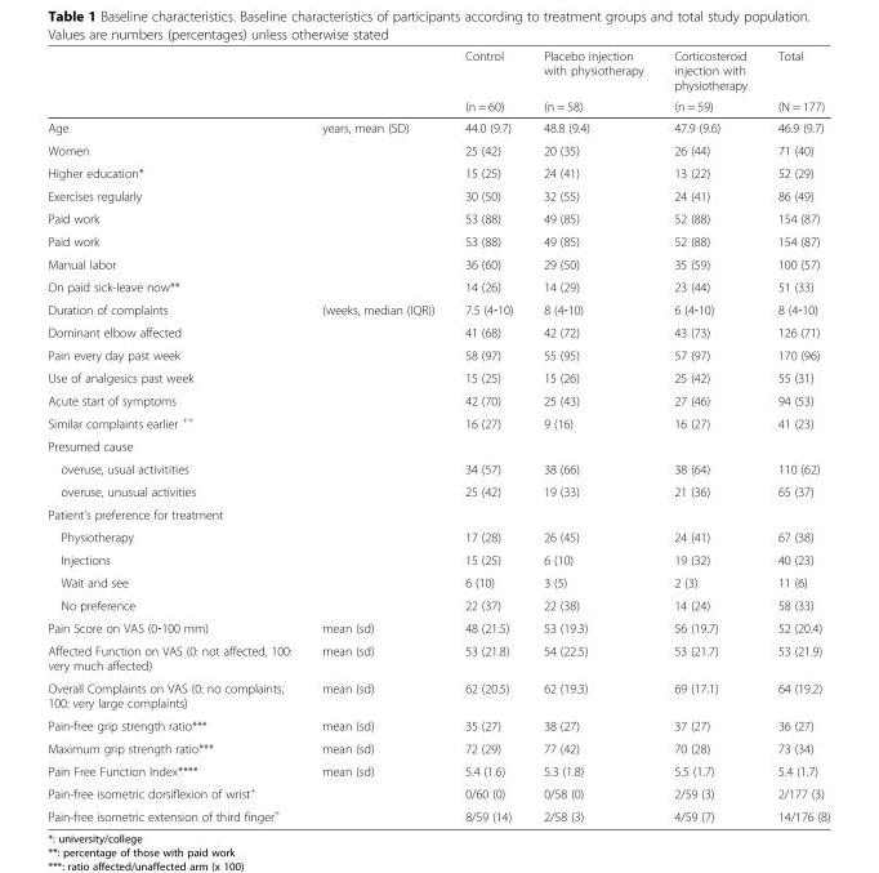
<table><thead><tr><td rowspan="2"></td><td rowspan="2"></td><td rowspan="2">Control (n = 60)</td><td rowspan="2">Placebo injection with physiotherapy (n = 58)</td><td rowspan="2">Corticosteroid injection with physiotherapy (n = 59)</td><td rowspan="2">Total (N = 177)</td></tr><tr></tr></thead><tbody><tr><td>Age</td><td>years, mean (SD)</td><td>44.0 (9.7)</td><td>48.8 (9.4)</td><td>47.9 (9.6)</td><td>46.9 (9.7)</td></tr><tr><td>Women</td><td></td><td>25 (42)</td><td>20 (35)</td><td>26 (44)</td><td>71 (40)</td></tr><tr><td>Higher education*</td><td></td><td>15 (25)</td><td>24 (41)</td><td>13 (22)</td><td>52 (29)</td></tr><tr><td>Exercises regularly</td><td></td><td>30 (50)</td><td>32 (55)</td><td>24 (41)</td><td>86 (49)</td></tr><tr><td>Paid work</td><td></td><td>53 (88)</td><td>49 (85)</td><td>52 (88)</td><td>154 (87)</td></tr><tr><td>Paid work</td><td></td><td>53 (88)</td><td>49 (85)</td><td>52 (88)</td><td>154 (87)</td></tr><tr><td>Manual labor</td><td></td><td>36 (60)</td><td>29 (50)</td><td>35 (59)</td><td>100 (57)</td></tr><tr><td>On paid sick-leave now**</td><td></td><td>14 (26)</td><td>14 (29)</td><td>23 (44)</td><td>51 (33)</td></tr><tr><td>Duration of complaints</td><td>(weeks, median (IQR))</td><td>7.5 (4‐10)</td><td>8 (4‐10)</td><td>6 (4‐10)</td><td>8 (4‐10)</td></tr><tr><td>Dominant elbow affected</td><td></td><td>41 (68)</td><td>42 (72)</td><td>43 (73)</td><td>126 (71)</td></tr><tr><td>Pain every day past week</td><td></td><td>58 (97)</td><td>55 (95)</td><td>57 (97)</td><td>170 (96)</td></tr><tr><td>Use of analgesics past week</td><td></td><td>15 (25)</td><td>15 (26)</td><td>25 (42)</td><td>55 (31)</td></tr><tr><td>Acute start of symptoms</td><td></td><td>42 (70)</td><td>25 (43)</td><td>27 (46)</td><td>94 (53)</td></tr><tr><td>Similar complaints earlier <sup>++</sup></td><td></td><td>16 (27)</td><td>9 (16)</td><td>16 (27)</td><td>41 (23)</td></tr><tr><td colspan="6">Presumed cause</td></tr><tr><td>overuse, usual activitities</td><td></td><td>34 (57)</td><td>38 (66)</td><td>38 (64)</td><td>110 (62)</td></tr><tr><td>overuse, unusual activities</td><td></td><td>25 (42)</td><td>19 (33)</td><td>21 (36)</td><td>65 (37)</td></tr><tr><td colspan="6">Patient’s preference for treatment</td></tr><tr><td>Physiotherapy</td><td></td><td>17 (28)</td><td>26 (45)</td><td>24 (41)</td><td>67 (38)</td></tr><tr><td>Injections</td><td></td><td>15 (25)</td><td>6 (10)</td><td>19 (32)</td><td>40 (23)</td></tr><tr><td>Wait and see</td><td></td><td>6 (10)</td><td>3 (5)</td><td>2 (3)</td><td>11 (6)</td></tr><tr><td>No preference</td><td></td><td>22 (37)</td><td>22 (38)</td><td>14 (24)</td><td>58 (33)</td></tr><tr><td>Pain Score on VAS (0‐100 mm)</td><td>mean (sd)</td><td>48 (21.5)</td><td>53 (19.3)</td><td>56 (19.7)</td><td>52 (20.4)</td></tr><tr><td>Affected Function on VAS (0: not affected, 100: very much affected)</td><td>mean (sd)</td><td>53 (21.8)</td><td>54 (22.5)</td><td>53 (21.7)</td><td>53 (21.9)</td></tr><tr><td>Overall Complaints on VAS (0: no complaints, 100: very large complaints)</td><td>mean (sd)</td><td>62 (20.5)</td><td>62 (19.3)</td><td>69 (17.1)</td><td>64 (19.2)</td></tr><tr><td>Pain-free grip strength ratio***</td><td>mean (sd)</td><td>35 (27)</td><td>38 (27)</td><td>37 (27)</td><td>36 (27)</td></tr><tr><td>Maximum grip strength ratio***</td><td>mean (sd)</td><td>72 (29)</td><td>77 (42)</td><td>70 (28)</td><td>73 (34)</td></tr><tr><td>Pain Free Function Index****</td><td>mean (sd)</td><td>5.4 (1.6)</td><td>5.3 (1.8)</td><td>5.5 (1.7)</td><td>5.4 (1.7)</td></tr><tr><td>Pain-free isometric dorsiflexion of wrist<sup>+</sup></td><td></td><td>0/60 (0)</td><td>0/58 (0)</td><td>2/59 (3)</td><td>2/177 (3)</td></tr><tr><td>Pain-free isometric extension of third finger<sup>+</sup></td><td></td><td>8/59 (14)</td><td>2/58 (3)</td><td>4/59 (7)</td><td>14/176 (8)</td></tr></tbody></table>